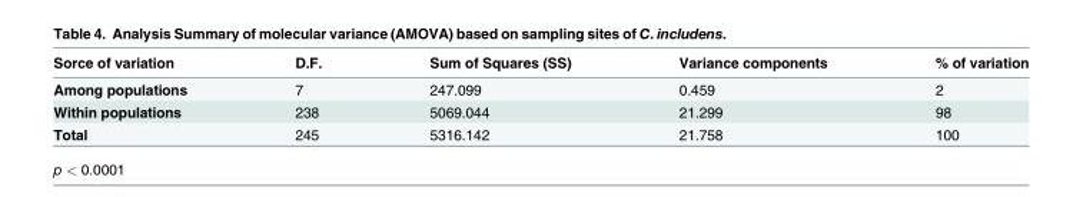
<table><thead><tr><td>Sorce of variation</td><td>D.F.</td><td>Sum of Squares (SS)</td><td>Variance components</td><td>% of variation</td></tr></thead><tbody><tr><td>Among populations</td><td>7</td><td>247.099</td><td>0.459</td><td>2</td></tr><tr><td>Within populations</td><td>238</td><td>5069.044</td><td>21.299</td><td>98</td></tr><tr><td>Total</td><td>245</td><td>5316.142</td><td>21.758</td><td>100</td></tr></tbody></table>